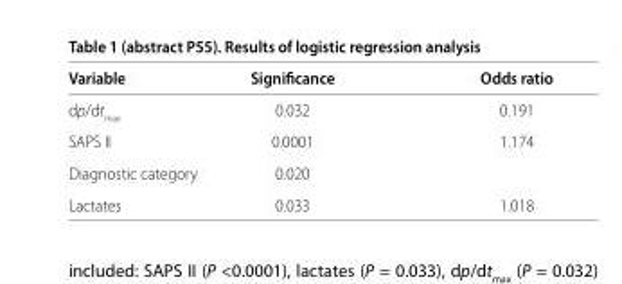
<table><thead><tr><td>Variable</td><td>Signifi cance</td><td>Odds ratio</td></tr></thead><tbody><tr><td>dp/dt<sub>max</sub></td><td>0.032</td><td>0.191</td></tr><tr><td>SAPS II</td><td>0.0001</td><td>1.174</td></tr><tr><td>Diagnostic category</td><td>0.020</td><td></td></tr><tr><td>Lactates</td><td>0.033</td><td>1.018</td></tr></tbody></table>